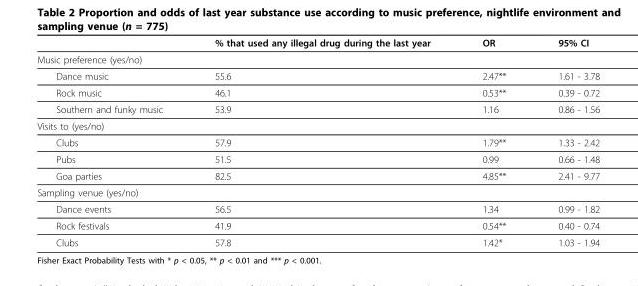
<table><thead><tr><td></td><td>% that used any illegal drug during the last year</td><td>OR</td><td>95% CI</td></tr></thead><tbody><tr><td colspan="4">Music preference (yes/no)</td></tr><tr><td>Dance music</td><td>55.6</td><td>2.47**</td><td>1.61 - 3.78</td></tr><tr><td>Rock music</td><td>46.1</td><td>0.53**</td><td>0.39 - 0.72</td></tr><tr><td>Southern and funky music</td><td>53.9</td><td>1.16</td><td>0.86 - 1.56</td></tr><tr><td colspan="4">Visits to (yes/no)</td></tr><tr><td>Clubs</td><td>57.9</td><td>1.79**</td><td>1.33 - 2.42</td></tr><tr><td>Pubs</td><td>51.5</td><td>0.99</td><td>0.66 - 1.48</td></tr><tr><td>Goa parties</td><td>82.5</td><td>4.85**</td><td>2.41 - 9.77</td></tr><tr><td colspan="4">Sampling venue (yes/no)</td></tr><tr><td>Dance events</td><td>56.5</td><td>1.34</td><td>0.99 - 1.82</td></tr><tr><td>Rock festivals</td><td>41.9</td><td>0.54**</td><td>0.40 - 0.74</td></tr><tr><td>Clubs</td><td>57.8</td><td>1.42*</td><td>1.03 - 1.94</td></tr></tbody></table>